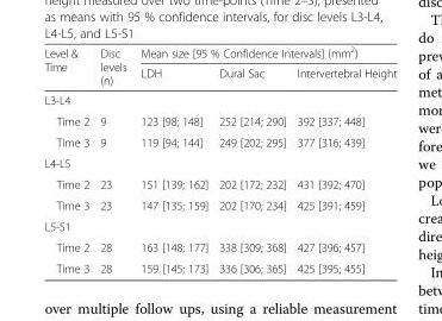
<table><thead><tr><td rowspan="2">Level &amp; Time</td><td rowspan="2">Disc levels (n)</td><td colspan="3">Mean size [95 % Confidence Intervals] (mm<sup>2</sup>)</td></tr><tr><td>LDH</td><td>Dural Sac</td><td>Intervertebral Height</td></tr></thead><tbody><tr><td colspan="5">L3-L4</td></tr><tr><td>Time 2</td><td>9</td><td>123 [98; 148]</td><td>252 [214; 290]</td><td>392 [337; 448]</td></tr><tr><td>Time 3</td><td>9</td><td>119 [94; 144]</td><td>249 [202; 295]</td><td>377 [316; 439]</td></tr><tr><td colspan="5">L4-L5</td></tr><tr><td>Time 2</td><td>23</td><td>151 [139; 162]</td><td>202 [172; 232]</td><td>431 [392; 470]</td></tr><tr><td>Time 3</td><td>23</td><td>147 [135; 159]</td><td>202 [170; 234]</td><td>425 [391; 459]</td></tr><tr><td colspan="5">L5-S1</td></tr><tr><td>Time 2</td><td>28</td><td>163 [148; 177]</td><td>338 [309; 368]</td><td>427 [396; 457]</td></tr><tr><td>Time 3</td><td>28</td><td>159 [145; 173]</td><td>336 [306; 365]</td><td>425 [395; 455]</td></tr></tbody></table>